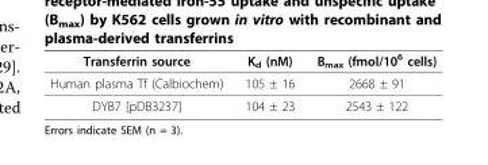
<table><thead><tr><td>Transferrin source</td><td>K<sub>d</sub> (nM)</td><td>B<sub>max</sub> (fmol/10<sup>6</sup> cells)</td></tr></thead><tbody><tr><td>Human plasma Tf (Calbiochem)</td><td>105 ± 16</td><td>2668 ± 91</td></tr><tr><td>DYB7 [pDB3237]</td><td>104 ± 23</td><td>2543 ± 122</td></tr></tbody></table>